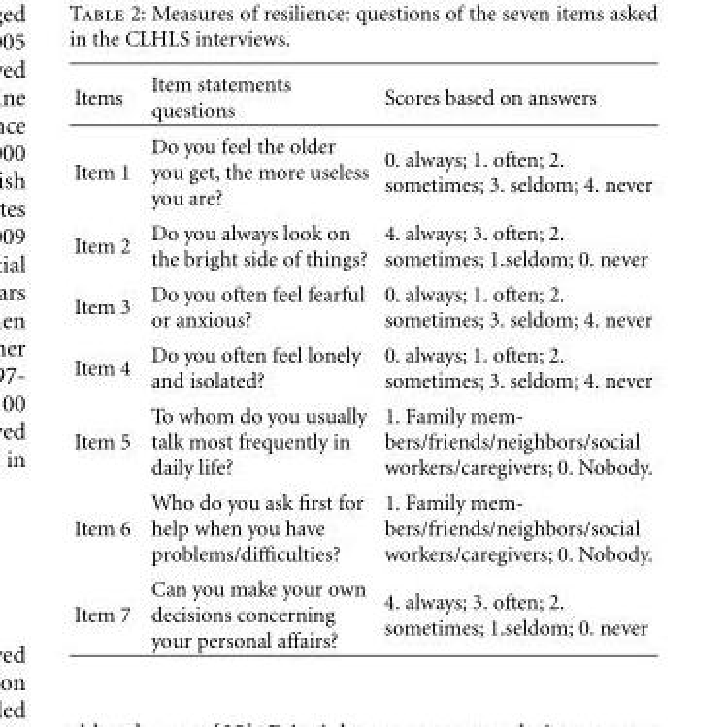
<table><thead><tr><td>Items</td><td>Item statements questions</td><td>Scores based on answers</td></tr></thead><tbody><tr><td>Item 1</td><td>Do you feel the older you get, the more useless you are?</td><td>0. always; 1. often; 2. sometimes; 3. seldom; 4. never</td></tr><tr><td>Item 2</td><td>Do you always look on the bright side of things?</td><td>4. always; 3. often; 2. sometimes; 1.seldom; 0. never</td></tr><tr><td>Item 3</td><td>Do you often feel fearful or anxious?</td><td>0. always; 1. often; 2. sometimes; 3. seldom; 4. never</td></tr><tr><td>Item 4</td><td>Do you often feel lonely and isolated?</td><td>0. always; 1. often; 2. sometimes; 3. seldom; 4. never</td></tr><tr><td>Item 5</td><td>To whom do you usually talk most frequently in daily life?</td><td>1. Family mem- bers/friends/neighbors/social workers/caregivers; 0. Nobody.</td></tr><tr><td>Item 6</td><td>Who do you ask first for help when you have problems/difficulties?</td><td>1. Family mem- bers/friends/neighbors/social workers/caregivers; 0. Nobody.</td></tr><tr><td>Item 7</td><td>Can you make your own decisions concerning your personal affairs?</td><td>4. always; 3. often; 2. sometimes; 1.seldom; 0. never</td></tr></tbody></table>